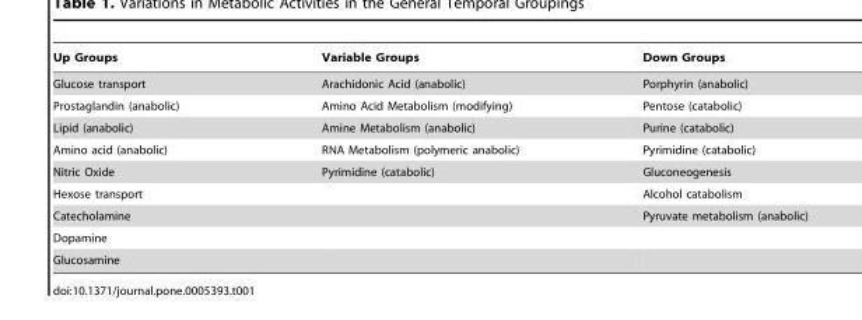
<table><thead><tr><td>Up Groups</td><td>Variable Groups</td><td>Down Groups</td></tr></thead><tbody><tr><td>Glucose transport</td><td>Arachidonic Acid (anabolic)</td><td>Porphyrin (anabolic)</td></tr><tr><td>Prostaglandin (anabolic)</td><td>Amino Acid Metabolism (modifying)</td><td>Pentose (catabolic)</td></tr><tr><td>Lipid (anabolic)</td><td>Amine Metabolism (anabolic)</td><td>Purine (catabolic)</td></tr><tr><td>Amino acid (anabolic)</td><td>RNA Metabolism (polymeric anabolic)</td><td>Pyrimidine (catabolic)</td></tr><tr><td>Nitric Oxide</td><td>Pyrimidine (catabolic)</td><td>Gluconeogenesis</td></tr><tr><td>Hexose transport</td><td></td><td>Alcohol catabolism</td></tr><tr><td>Catecholamine</td><td></td><td>Pyruvate metabolism (anabolic)</td></tr><tr><td colspan="3">Dopamine</td></tr><tr><td>Glucosamine</td><td></td><td></td></tr></tbody></table>